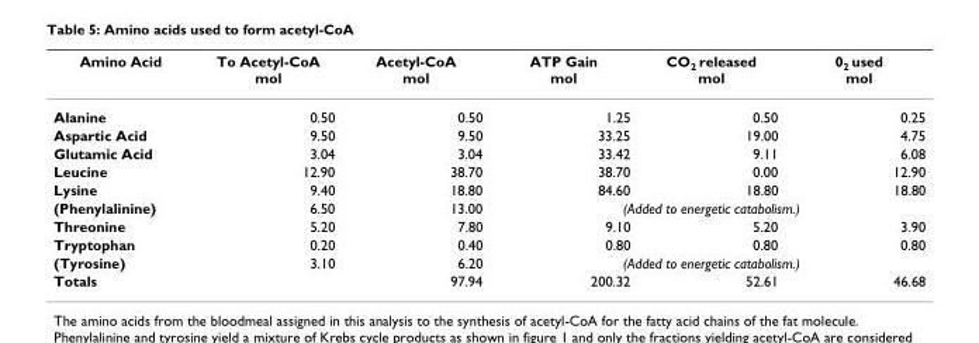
<table><thead><tr><td>Amino Acid</td><td>To Acetyl-CoA mol</td><td>Acetyl-CoA mol</td><td>ATP Gain mol</td><td>CO<sub>2</sub> released mol</td><td>0<sub>2</sub> used mol</td></tr></thead><tbody><tr><td>Alanine</td><td>0.50</td><td>0.50</td><td>1.25</td><td>0.50</td><td>0.25</td></tr><tr><td>Aspartic Acid</td><td>9.50</td><td>9.50</td><td>33.25</td><td>19.00</td><td>4.75</td></tr><tr><td>Glutamic Acid</td><td>3.04</td><td>3.04</td><td>33.42</td><td>9.11</td><td>6.08</td></tr><tr><td>Leucine</td><td>12.90</td><td>38.70</td><td>38.70</td><td>0.00</td><td>12.90</td></tr><tr><td>Lysine</td><td>9.40</td><td>18.80</td><td>84.60</td><td>18.80</td><td>18.80</td></tr><tr><td>(Phenylalinine)</td><td>6.50</td><td>13.00</td><td colspan="3">(Added to energetic catabolism.)</td></tr><tr><td>Threonine</td><td>5.20</td><td>7.80</td><td>9.10</td><td>5.20</td><td>3.90</td></tr><tr><td>Tryptophan</td><td>0.20</td><td>0.40</td><td>0.80</td><td>0.80</td><td>0.80</td></tr><tr><td>(Tyrosine)</td><td>3.10</td><td>6.20</td><td colspan="3">(Added to energetic catabolism.)</td></tr><tr><td colspan="2">Totals</td><td>97.94</td><td>200.32</td><td>52.61</td><td>46.68</td></tr></tbody></table>